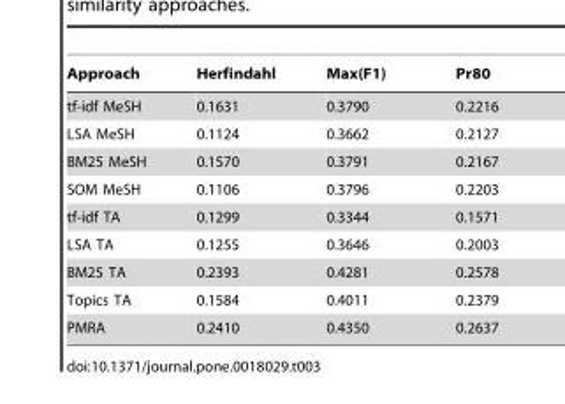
<table><thead><tr><td>Approach</td><td>Herfindahl</td><td>Max(F1)</td><td>Pr80</td></tr></thead><tbody><tr><td>tf-idf MeSH</td><td>0.1631</td><td>0.3790</td><td>0.2216</td></tr><tr><td>LSA MeSH</td><td>0.1124</td><td>0.3662</td><td>0.2127</td></tr><tr><td>BM25 MeSH</td><td>0.1570</td><td>0.3791</td><td>0.2167</td></tr><tr><td>SOM MeSH</td><td>0.1106</td><td>0.3796</td><td>0.2203</td></tr><tr><td>tf-idf TA</td><td>0.1299</td><td>0.3344</td><td>0.1571</td></tr><tr><td>LSA TA</td><td>0.1255</td><td>0.3646</td><td>0.2003</td></tr><tr><td>BM25 TA</td><td>0.2393</td><td>0.4281</td><td>0.2578</td></tr><tr><td>Topics TA</td><td>0.1584</td><td>0.4011</td><td>0.2379</td></tr><tr><td>PMRA</td><td>0.2410</td><td>0.4350</td><td>0.2637</td></tr></tbody></table>